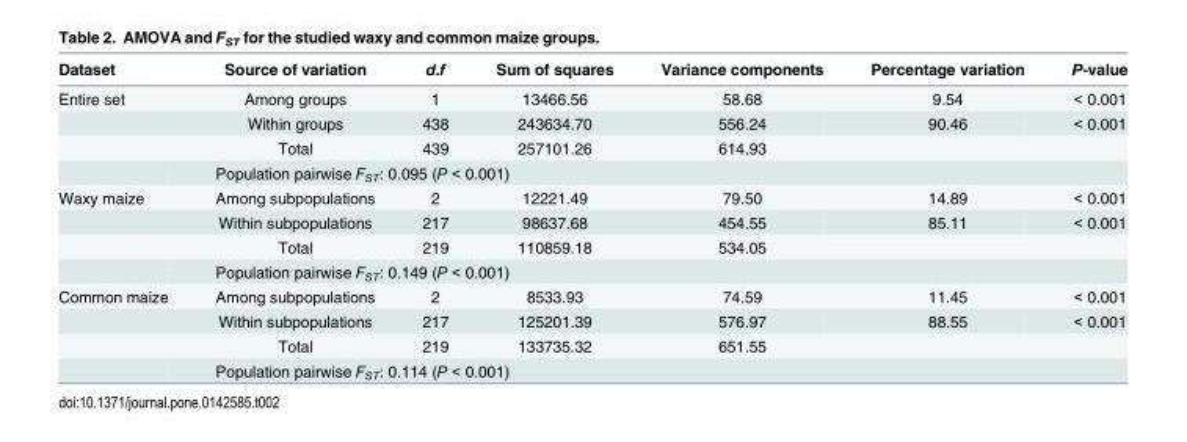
<table><thead><tr><td>Dataset</td><td>Source of variation</td><td>d.f</td><td>Sum of squares</td><td>Variance components</td><td>Percentage variation</td><td>P-value</td></tr></thead><tbody><tr><td rowspan="4">Entire set</td><td>Among groups</td><td>1</td><td>13466.56</td><td>58.68</td><td>9.54</td><td>&lt; 0.001</td></tr><tr><td>Within groups</td><td>438</td><td>243634.70</td><td>556.24</td><td>90.46</td><td>&lt; 0.001</td></tr><tr><td>Total</td><td>439</td><td>257101.26</td><td>614.93</td><td></td><td></td></tr><tr><td colspan="6">Population pairwise F<sub>ST</sub>: 0.095 (P &lt; 0.001)</td></tr><tr><td rowspan="4">Waxy maize</td><td>Among subpopulations</td><td>2</td><td>12221.49</td><td>79.50</td><td>14.89</td><td>&lt; 0.001</td></tr><tr><td>Within subpopulations</td><td>217</td><td>98637.68</td><td>454.55</td><td>85.11</td><td>&lt; 0.001</td></tr><tr><td>Total</td><td>219</td><td>110859.18</td><td>534.05</td><td></td><td></td></tr><tr><td colspan="6">Population pairwise F<sub>ST</sub>: 0.149 (P &lt; 0.001)</td></tr><tr><td rowspan="4">Common maize</td><td>Among subpopulations</td><td>2</td><td>8533.93</td><td>74.59</td><td>11.45</td><td>&lt; 0.001</td></tr><tr><td>Within subpopulations</td><td>217</td><td>125201.39</td><td>576.97</td><td>88.55</td><td>&lt; 0.001</td></tr><tr><td>Total</td><td>219</td><td>133735.32</td><td>651.55</td><td></td><td></td></tr><tr><td colspan="6">Population pairwise F<sub>ST</sub>: 0.114 (P &lt; 0.001)</td></tr></tbody></table>